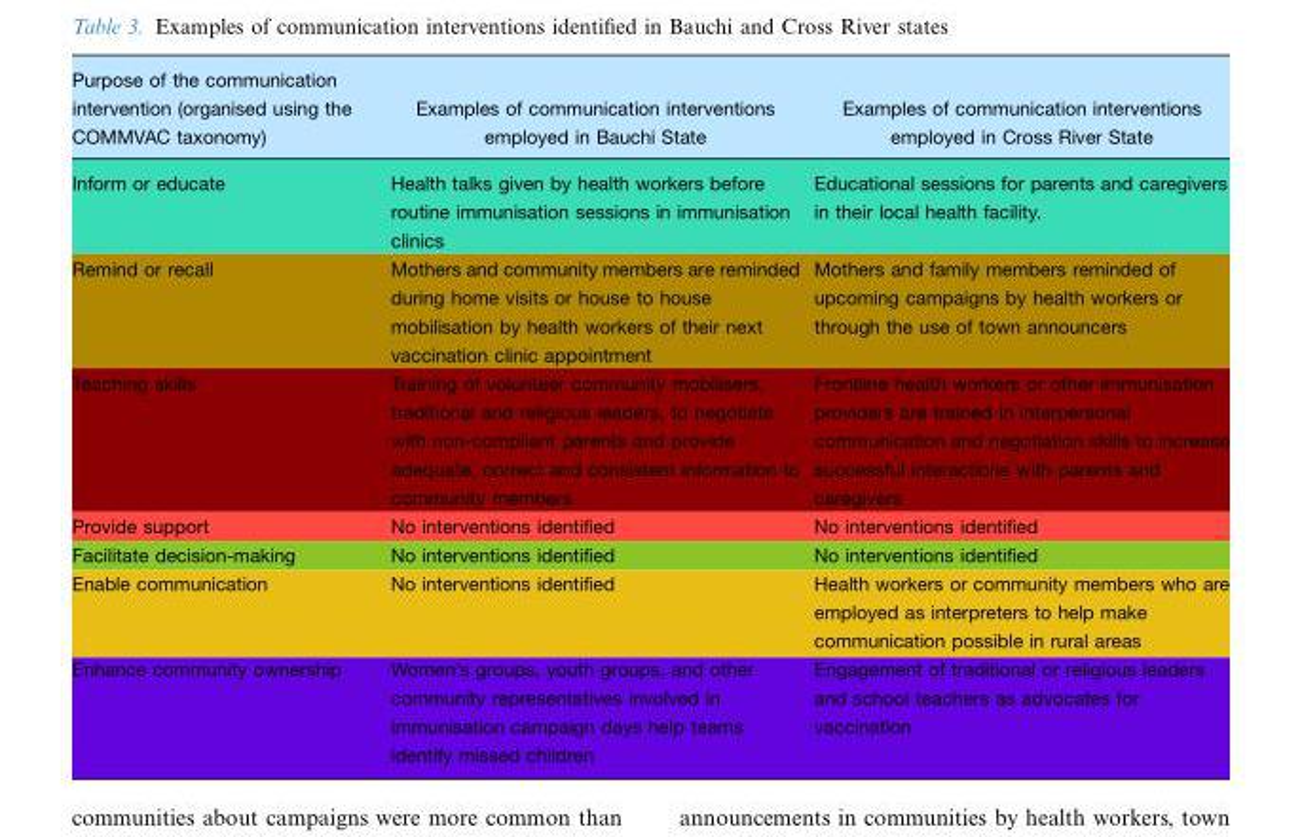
<table><thead><tr><td>Purpose of the communication intervention (organised using the COMMVAC taxonomy)</td><td>Examples of communication interventions employed in Bauchi State</td><td>Examples of communication interventions employed in Cross River State</td></tr></thead><tbody><tr><td>Inform or educate</td><td>Health talks given by health workers before routine immunisation sessions in immunisation clinics</td><td>Educational sessions for parents and caregivers in their local health facility.</td></tr><tr><td>Remind or recall</td><td>Mothers and community members are reminded during home visits or house to house mobilisation by health workers of their next vaccination clinic appointment</td><td>Mothers and family members reminded of upcoming campaigns by health workers or through the use of town announcers</td></tr><tr><td>Teaching skills</td><td>Training of volunteer community mobilisers, traditional and religious leaders, to negotiate with non-compliant parents and provide adequate, correct and consistent information to community members</td><td>Frontline health workers or other immunisation providers are trained in interpersonal communication and negotiation skills to increase successful interactions with parents and caregivers</td></tr><tr><td>Provide support</td><td>No interventions identified</td><td>No interventions identified</td></tr><tr><td>Facilitate decision-making</td><td>No interventions identified</td><td>No interventions identified</td></tr><tr><td>Enable communication</td><td>No interventions identified</td><td>Health workers or community members who are employed as interpreters to help make communication possible in rural areas</td></tr><tr><td>Enhance community ownership</td><td>Women’s groups, youth groups, and other community representatives involved in immunisation campaign days help teams identify missed children</td><td>Engagement of traditional or religious leaders and school teachers as advocates for vaccination</td></tr></tbody></table>